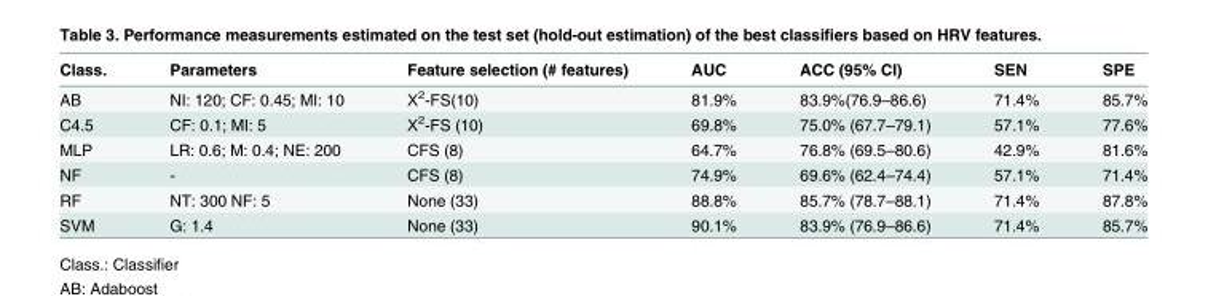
<table><thead><tr><td>Class.</td><td>Parameters</td><td>Feature selection (# features)</td><td>AUC</td><td>ACC (95% CI)</td><td>SEN</td><td>SPE</td></tr></thead><tbody><tr><td>AB</td><td>NI: 120; CF: 0.45; MI: 10</td><td>Χ<sup>2</sup>-FS(10)</td><td>81.9%</td><td>83.9%(76.9–86.6)</td><td>71.4%</td><td>85.7%</td></tr><tr><td>C4.5</td><td>CF: 0.1; MI: 5</td><td>Χ<sup>2</sup>-FS (10)</td><td>69.8%</td><td>75.0% (67.7–79.1)</td><td>57.1%</td><td>77.6%</td></tr><tr><td>MLP</td><td>LR: 0.6; M: 0.4; NE: 200</td><td>CFS (8)</td><td>64.7%</td><td>76.8% (69.5–80.6)</td><td>42.9%</td><td>81.6%</td></tr><tr><td>NF</td><td>-</td><td>CFS (8)</td><td>74.9%</td><td>69.6% (62.4–74.4)</td><td>57.1%</td><td>71.4%</td></tr><tr><td>RF</td><td>NT: 300 NF: 5</td><td>None (33)</td><td>88.8%</td><td>85.7% (78.7–88.1)</td><td>71.4%</td><td>87.8%</td></tr><tr><td>SVM</td><td>G: 1.4</td><td>None (33)</td><td>90.1%</td><td>83.9% (76.9–86.6)</td><td>71.4%</td><td>85.7%</td></tr></tbody></table>